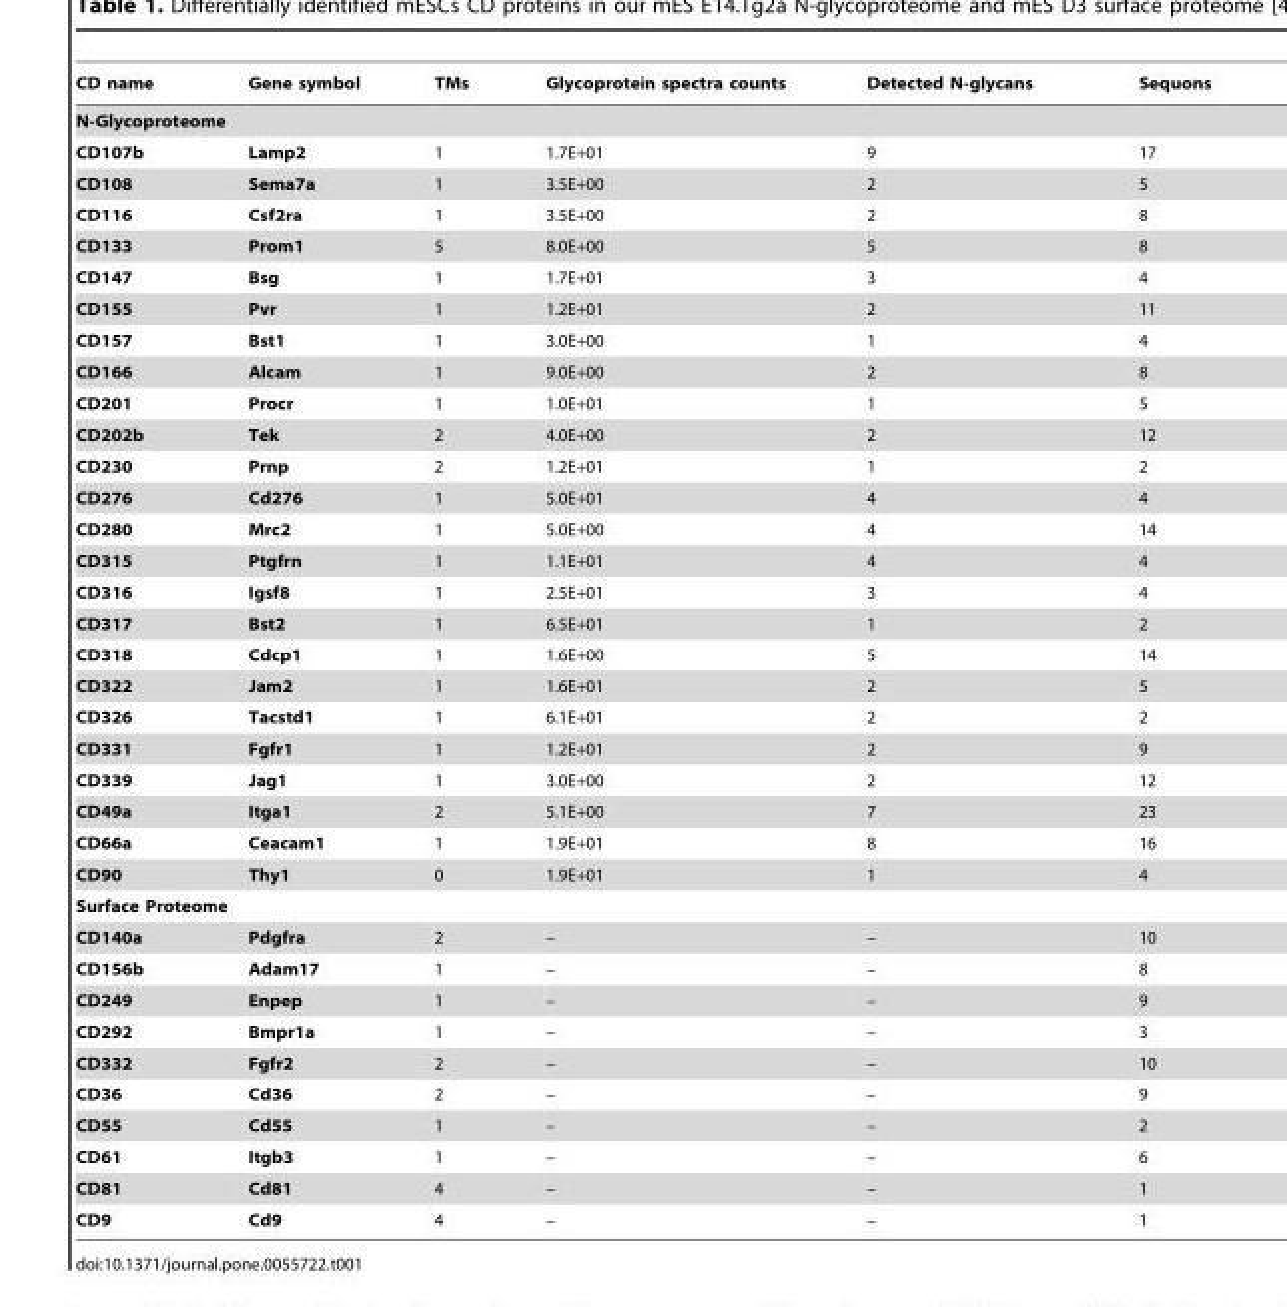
<table><thead><tr><td>CD name</td><td>Gene symbol</td><td>TMs</td><td>Glycoprotein spectra counts</td><td>Detected N-glycans</td><td>Sequons</td></tr></thead><tbody><tr><td colspan="6">N-Glycoproteome</td></tr><tr><td>CD107b</td><td>Lamp2</td><td>1</td><td>1.7E+01</td><td>9</td><td>17</td></tr><tr><td>CD108</td><td>Sema7a</td><td>1</td><td>3.5E+00</td><td>2</td><td>5</td></tr><tr><td>CD116</td><td>Csf2ra</td><td>1</td><td>3.5E+00</td><td>2</td><td>8</td></tr><tr><td>CD133</td><td>Prom1</td><td>5</td><td>8.0E+00</td><td>5</td><td>8</td></tr><tr><td>CD147</td><td>Bsg</td><td>1</td><td>1.7E+01</td><td>3</td><td>4</td></tr><tr><td>CD155</td><td>Pvr</td><td>1</td><td>1.2E+01</td><td>2</td><td>11</td></tr><tr><td>CD157</td><td>Bst1</td><td>1</td><td>3.0E+00</td><td>1</td><td>4</td></tr><tr><td>CD166</td><td>Alcam</td><td>1</td><td>9.0E+00</td><td>2</td><td>8</td></tr><tr><td>CD201</td><td>Procr</td><td>1</td><td>1.0E+01</td><td>1</td><td>5</td></tr><tr><td>CD202b</td><td>Tek</td><td>2</td><td>4.0E+00</td><td>2</td><td>12</td></tr><tr><td>CD230</td><td>Prnp</td><td>2</td><td>1.2E+01</td><td>1</td><td>2</td></tr><tr><td>CD276</td><td>Cd276</td><td>1</td><td>5.0E+01</td><td>4</td><td>4</td></tr><tr><td>CD280</td><td>Mrc2</td><td>1</td><td>5.0E+00</td><td>4</td><td>14</td></tr><tr><td>CD315</td><td>Ptgfrn</td><td>1</td><td>1.1E+01</td><td>4</td><td>4</td></tr><tr><td>CD316</td><td>Igsf8</td><td>1</td><td>2.5E+01</td><td>3</td><td>4</td></tr><tr><td>CD317</td><td>Bst2</td><td>1</td><td>6.5E+01</td><td>1</td><td>2</td></tr><tr><td>CD318</td><td>Cdcp1</td><td>1</td><td>1.6E+00</td><td>5</td><td>14</td></tr><tr><td>CD322</td><td>Jam2</td><td>1</td><td>1.6E+01</td><td>2</td><td>5</td></tr><tr><td>CD326</td><td>Tacstd1</td><td>1</td><td>6.1E+01</td><td>2</td><td>2</td></tr><tr><td>CD331</td><td>Fgfr1</td><td>1</td><td>1.2E+01</td><td>2</td><td>9</td></tr><tr><td>CD339</td><td>Jag1</td><td>1</td><td>3.0E+00</td><td>2</td><td>12</td></tr><tr><td>CD49a</td><td>Itga1</td><td>2</td><td>5.1E+00</td><td>7</td><td>23</td></tr><tr><td>CD66a</td><td>Ceacam1</td><td>1</td><td>1.9E+01</td><td>8</td><td>16</td></tr><tr><td>CD90</td><td>Thy1</td><td>0</td><td>1.9E+01</td><td>1</td><td>4</td></tr><tr><td colspan="6">Surface Proteome</td></tr><tr><td>CD140a</td><td>Pdgfra</td><td>2</td><td>–</td><td>–</td><td>10</td></tr><tr><td>CD156b</td><td>Adam17</td><td>1</td><td>–</td><td>–</td><td>8</td></tr><tr><td>CD249</td><td>Enpep</td><td>1</td><td>–</td><td>–</td><td>9</td></tr><tr><td>CD292</td><td>Bmpr1a</td><td>1</td><td>–</td><td>–</td><td>3</td></tr><tr><td>CD332</td><td>Fgfr2</td><td>2</td><td>–</td><td>–</td><td>10</td></tr><tr><td>CD36</td><td>Cd36</td><td>2</td><td>–</td><td>–</td><td>9</td></tr><tr><td>CD55</td><td>Cd55</td><td>1</td><td>–</td><td>–</td><td>2</td></tr><tr><td>CD61</td><td>Itgb3</td><td>1</td><td>–</td><td>–</td><td>6</td></tr><tr><td>CD81</td><td>Cd81</td><td>4</td><td>–</td><td>–</td><td>1</td></tr><tr><td>CD9</td><td>Cd9</td><td>4</td><td>–</td><td>–</td><td>1</td></tr></tbody></table>